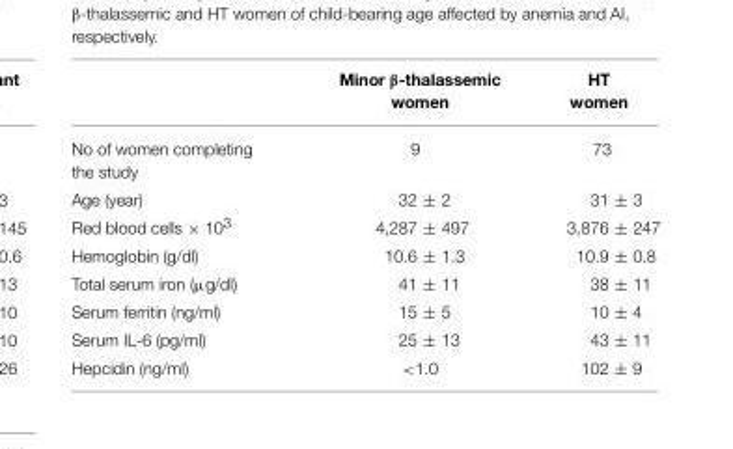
<table><thead><tr><td></td><td>Minor β-thalassemic women</td><td>HT women</td></tr></thead><tbody><tr><td>No of women completing the study</td><td>9</td><td>73</td></tr><tr><td>Age (year)</td><td>32 ± 2</td><td>31 ± 3</td></tr><tr><td>Red blood cells × 10<sup>3</sup></td><td>4,287 ± 497</td><td>3,876 ± 247</td></tr><tr><td>Hemoglobin (g/dl)</td><td>10.6 ± 1.3</td><td>10.9 ± 0.8</td></tr><tr><td>Total serum iron (µg/dl)</td><td>41 ± 11</td><td>38 ± 11</td></tr><tr><td>Serum ferritin (ng/ml)</td><td>15 ± 5</td><td>10 ± 4</td></tr><tr><td>Serum IL-6 (pg/ml)</td><td>25 ± 13</td><td>43 ± 11</td></tr><tr><td>Hepcidin (ng/ml)</td><td>&lt;1.0</td><td>102 ± 9</td></tr></tbody></table>